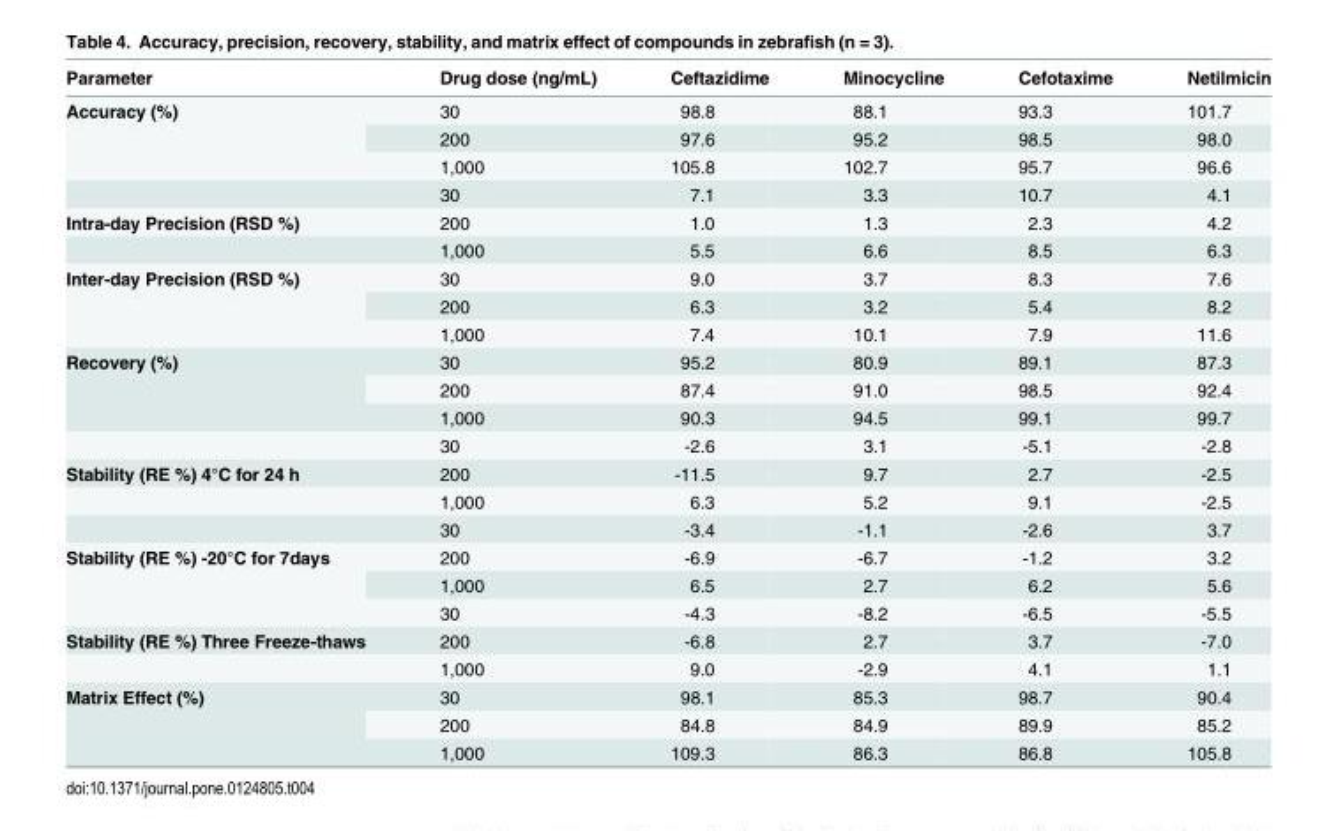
<table><thead><tr><td>Parameter</td><td>Drug dose (ng/mL)</td><td>Ceftazidime</td><td>Minocycline</td><td>Cefotaxime</td><td>Netilmicin</td></tr></thead><tbody><tr><td rowspan="4">Accuracy (%)</td><td>30</td><td>98.8</td><td>88.1</td><td>93.3</td><td>101.7</td></tr><tr><td>200</td><td>97.6</td><td>95.2</td><td>98.5</td><td>98.0</td></tr><tr><td>1,000</td><td>105.8</td><td>102.7</td><td>95.7</td><td>96.6</td></tr><tr><td>30</td><td>7.1</td><td>3.3</td><td>10.7</td><td>4.1</td></tr><tr><td rowspan="2">Intra-day Precision (RSD %)</td><td>200</td><td>1.0</td><td>1.3</td><td>2.3</td><td>4.2</td></tr><tr><td>1,000</td><td>5.5</td><td>6.6</td><td>8.5</td><td>6.3</td></tr><tr><td rowspan="3">Inter-day Precision (RSD %)</td><td>30</td><td>9.0</td><td>3.7</td><td>8.3</td><td>7.6</td></tr><tr><td>200</td><td>6.3</td><td>3.2</td><td>5.4</td><td>8.2</td></tr><tr><td>1,000</td><td>7.4</td><td>10.1</td><td>7.9</td><td>11.6</td></tr><tr><td rowspan="4">Recovery (%)</td><td>30</td><td>95.2</td><td>80.9</td><td>89.1</td><td>87.3</td></tr><tr><td>200</td><td>87.4</td><td>91.0</td><td>98.5</td><td>92.4</td></tr><tr><td>1,000</td><td>90.3</td><td>94.5</td><td>99.1</td><td>99.7</td></tr><tr><td>30</td><td>-2.6</td><td>3.1</td><td>-5.1</td><td>-2.8</td></tr><tr><td rowspan="3">Stability (RE %) 4°C for 24 h</td><td>200</td><td>-11.5</td><td>9.7</td><td>2.7</td><td>-2.5</td></tr><tr><td>1,000</td><td>6.3</td><td>5.2</td><td>9.1</td><td>-2.5</td></tr><tr><td>30</td><td>-3.4</td><td>-1.1</td><td>-2.6</td><td>3.7</td></tr><tr><td rowspan="3">Stability (RE %) -20°C for 7days</td><td>200</td><td>-6.9</td><td>-6.7</td><td>-1.2</td><td>3.2</td></tr><tr><td>1,000</td><td>6.5</td><td>2.7</td><td>6.2</td><td>5.6</td></tr><tr><td>30</td><td>-4.3</td><td>-8.2</td><td>-6.5</td><td>-5.5</td></tr><tr><td rowspan="2">Stability (RE %) Three Freeze-thaws</td><td>200</td><td>-6.8</td><td>2.7</td><td>3.7</td><td>-7.0</td></tr><tr><td>1,000</td><td>9.0</td><td>-2.9</td><td>4.1</td><td>1.1</td></tr><tr><td rowspan="3">Matrix Effect (%)</td><td>30</td><td>98.1</td><td>85.3</td><td>98.7</td><td>90.4</td></tr><tr><td>200</td><td>84.8</td><td>84.9</td><td>89.9</td><td>85.2</td></tr><tr><td>1,000</td><td>109.3</td><td>86.3</td><td>86.8</td><td>105.8</td></tr></tbody></table>